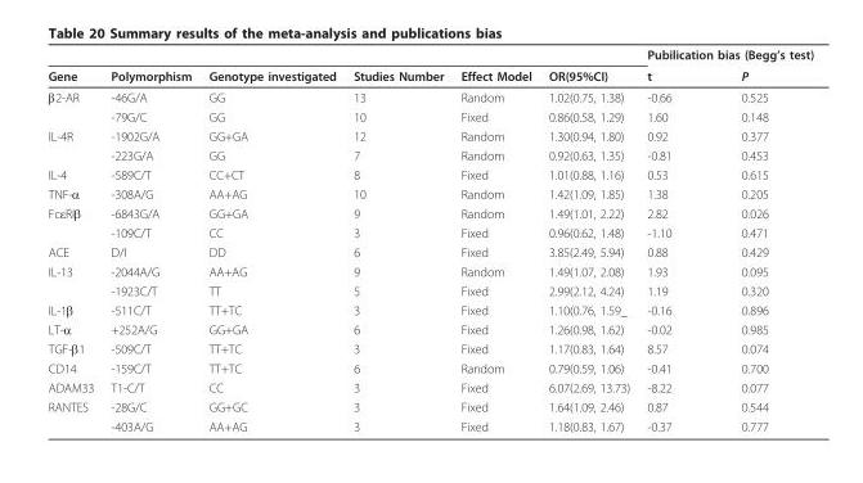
<table><thead><tr><td rowspan="2">Gene</td><td rowspan="2">Polymorphism</td><td rowspan="2">Genotype investigated</td><td rowspan="2">Studies Number</td><td rowspan="2">Effect Model</td><td rowspan="2">OR(95%CI)</td><td colspan="2">Pubilication bias (Begg’s test)</td></tr><tr><td>t</td><td>P</td></tr></thead><tbody><tr><td rowspan="2">β2-AR</td><td>-46G/A</td><td>GG</td><td>13</td><td>Random</td><td>1.02(0.75, 1.38)</td><td>-0.66</td><td>0.525</td></tr><tr><td>-79G/C</td><td>GG</td><td>10</td><td>Fixed</td><td>0.86(0.58, 1.29)</td><td>1.60</td><td>0.148</td></tr><tr><td rowspan="2">IL-4R</td><td>-1902G/A</td><td>GG+GA</td><td>12</td><td>Random</td><td>1.30(0.94, 1.80)</td><td>0.92</td><td>0.377</td></tr><tr><td>-223G/A</td><td>GG</td><td>7</td><td>Random</td><td>0.92(0.63, 1.35)</td><td>-0.81</td><td>0.453</td></tr><tr><td>IL-4</td><td>-589C/T</td><td>CC+CT</td><td>8</td><td>Fixed</td><td>1.01(0.88, 1.16)</td><td>0.53</td><td>0.615</td></tr><tr><td>TNF-α</td><td>-308A/G</td><td>AA+AG</td><td>10</td><td>Random</td><td>1.42(1.09, 1.85)</td><td>1.38</td><td>0.205</td></tr><tr><td rowspan="2">FcεRIβ</td><td>-6843G/A</td><td>GG+GA</td><td>9</td><td>Random</td><td>1.49(1.01, 2.22)</td><td>2.82</td><td>0.026</td></tr><tr><td>-109C/T</td><td>CC</td><td>3</td><td>Fixed</td><td>0.96(0.62, 1.48)</td><td>-1.10</td><td>0.471</td></tr><tr><td>ACE</td><td>D/I</td><td>DD</td><td>6</td><td>Fixed</td><td>3.85(2.49, 5.94)</td><td>0.88</td><td>0.429</td></tr><tr><td rowspan="2">IL-13</td><td>-2044A/G</td><td>AA+AG</td><td>9</td><td>Random</td><td>1.49(1.07, 2.08)</td><td>1.93</td><td>0.095</td></tr><tr><td>-1923C/T</td><td>TT</td><td>5</td><td>Fixed</td><td>2.99(2.12, 4.24)</td><td>1.19</td><td>0.320</td></tr><tr><td>IL-1β</td><td>-511C/T</td><td>TT+TC</td><td>3</td><td>Fixed</td><td>1.10(0.76, 1.59_</td><td>-0.16</td><td>0.896</td></tr><tr><td>LT-α</td><td>+252A/G</td><td>GG+GA</td><td>6</td><td>Fixed</td><td>1.26(0.98, 1.62)</td><td>-0.02</td><td>0.985</td></tr><tr><td>TGF-β1</td><td>-509C/T</td><td>TT+TC</td><td>3</td><td>Fixed</td><td>1.17(0.83, 1.64)</td><td>8.57</td><td>0.074</td></tr><tr><td>CD14</td><td>-159C/T</td><td>TT+TC</td><td>6</td><td>Random</td><td>0.79(0.59, 1.06)</td><td>-0.41</td><td>0.700</td></tr><tr><td>ADAM33</td><td>T1-C/T</td><td>CC</td><td>3</td><td>Fixed</td><td>6.07(2.69, 13.73)</td><td>-8.22</td><td>0.077</td></tr><tr><td rowspan="2">RANTES</td><td>-28G/C</td><td>GG+GC</td><td>3</td><td>Fixed</td><td>1.64(1.09, 2.46)</td><td>0.87</td><td>0.544</td></tr><tr><td>-403A/G</td><td>AA+AG</td><td>3</td><td>Fixed</td><td>1.18(0.83, 1.67)</td><td>-0.37</td><td>0.777</td></tr></tbody></table>